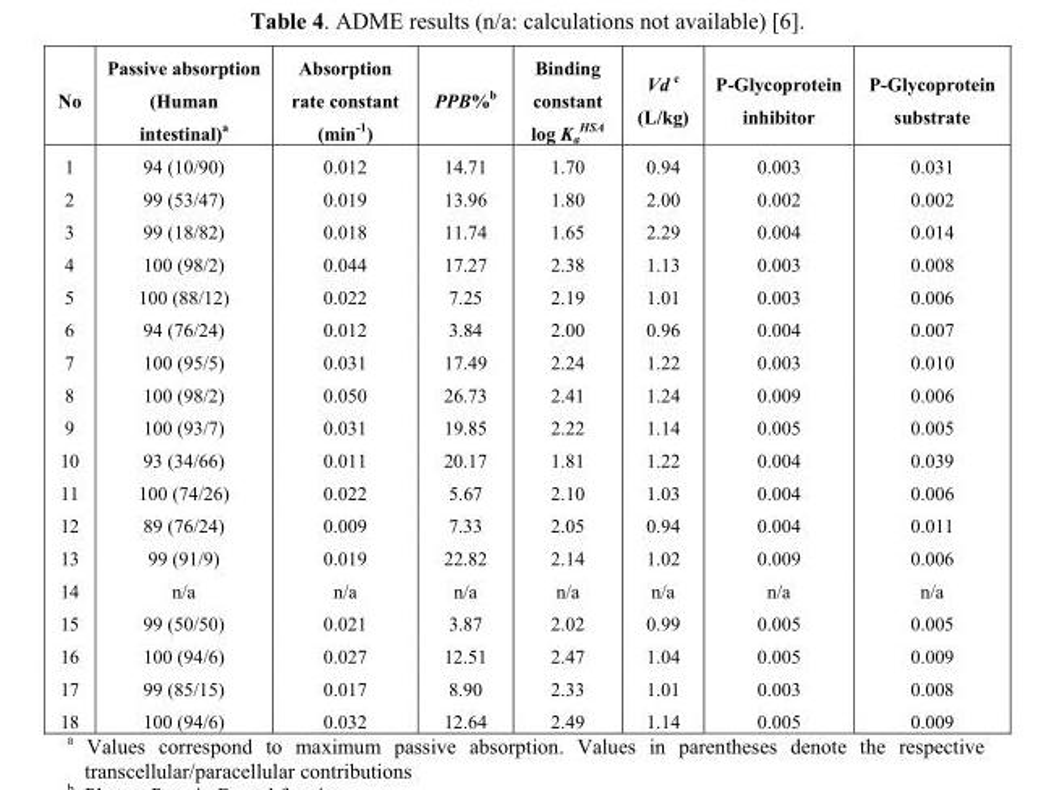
<table><thead><tr><td>No</td><td>Passive absorption (Human intestinal)<sup>a</sup></td><td>Absorption rate constant (min<sup>-1</sup>)</td><td>PPB%<sup>b</sup></td><td>Binding constant log K<sub>a</sub> <sup>HSA</sup></td><td>Vd <sup>c</sup> (L/kg)</td><td>P-Glycoprotein inhibitor</td><td>P-Glycoprotein substrate</td></tr></thead><tbody><tr><td>1</td><td>94 (10/90)</td><td>0.012</td><td>14.71</td><td>1.70</td><td>0.94</td><td>0.003</td><td>0.031</td></tr><tr><td>2</td><td>99 (53/47)</td><td>0.019</td><td>13.96</td><td>1.80</td><td>2.00</td><td>0.002</td><td>0.002</td></tr><tr><td>3</td><td>99 (18/82)</td><td>0.018</td><td>11.74</td><td>1.65</td><td>2.29</td><td>0.004</td><td>0.014</td></tr><tr><td>4</td><td>100 (98/2)</td><td>0.044</td><td>17.27</td><td>2.38</td><td>1.13</td><td>0.003</td><td>0.008</td></tr><tr><td>5</td><td>100 (88/12)</td><td>0.022</td><td>7.25</td><td>2.19</td><td>1.01</td><td>0.003</td><td>0.006</td></tr><tr><td>6</td><td>94 (76/24)</td><td>0.012</td><td>3.84</td><td>2.00</td><td>0.96</td><td>0.004</td><td>0.007</td></tr><tr><td>7</td><td>100 (95/5)</td><td>0.031</td><td>17.49</td><td>2.24</td><td>1.22</td><td>0.003</td><td>0.010</td></tr><tr><td>8</td><td>100 (98/2)</td><td>0.050</td><td>26.73</td><td>2.41</td><td>1.24</td><td>0.009</td><td>0.006</td></tr><tr><td>9</td><td>100 (93/7)</td><td>0.031</td><td>19.85</td><td>2.22</td><td>1.14</td><td>0.005</td><td>0.005</td></tr><tr><td>10</td><td>93 (34/66)</td><td>0.011</td><td>20.17</td><td>1.81</td><td>1.22</td><td>0.004</td><td>0.039</td></tr><tr><td>11</td><td>100 (74/26)</td><td>0.022</td><td>5.67</td><td>2.10</td><td>1.03</td><td>0.004</td><td>0.006</td></tr><tr><td>12</td><td>89 (76/24)</td><td>0.009</td><td>7.33</td><td>2.05</td><td>0.94</td><td>0.004</td><td>0.011</td></tr><tr><td>13</td><td>99 (91/9)</td><td>0.019</td><td>22.82</td><td>2.14</td><td>1.02</td><td>0.009</td><td>0.006</td></tr><tr><td>14</td><td>n/a</td><td>n/a</td><td>n/a</td><td>n/a</td><td>n/a</td><td>n/a</td><td>n/a</td></tr><tr><td>15</td><td>99 (50/50)</td><td>0.021</td><td>3.87</td><td>2.02</td><td>0.99</td><td>0.005</td><td>0.005</td></tr><tr><td>16</td><td>100 (94/6)</td><td>0.027</td><td>12.51</td><td>2.47</td><td>1.04</td><td>0.005</td><td>0.009</td></tr><tr><td>17</td><td>99 (85/15)</td><td>0.017</td><td>8.90</td><td>2.33</td><td>1.01</td><td>0.003</td><td>0.008</td></tr><tr><td>18</td><td>100 (94/6)</td><td>0.032</td><td>12.64</td><td>2.49</td><td>1.14</td><td>0.005</td><td>0.009</td></tr></tbody></table>